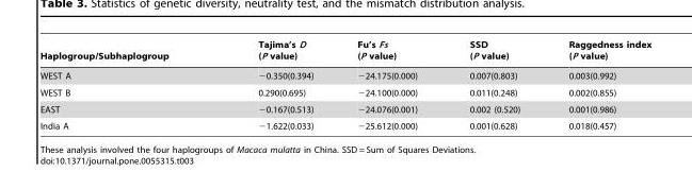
<table><thead><tr><td>Haplogroup/Subhaplogroup</td><td>Tajima’s D (P value)</td><td>Fu’s Fs (P value)</td><td>SSD (P value)</td><td>Raggedness index (P value)</td></tr></thead><tbody><tr><td>WEST A</td><td>−0.350(0.394)</td><td>−24.175(0.000)</td><td>0.007(0.803)</td><td>0.003(0.992)</td></tr><tr><td>WEST B</td><td>0.290(0.695)</td><td>−24.100(0.000)</td><td>0.011(0.248)</td><td>0.002(0.855)</td></tr><tr><td>EAST</td><td>−0.167(0.513)</td><td>−24.076(0.001)</td><td>0.002 (0.520)</td><td>0.001(0.986)</td></tr><tr><td>India A</td><td>−1.622(0.033)</td><td>−25.612(0.000)</td><td>0.001(0.628)</td><td>0.018(0.457)</td></tr></tbody></table>